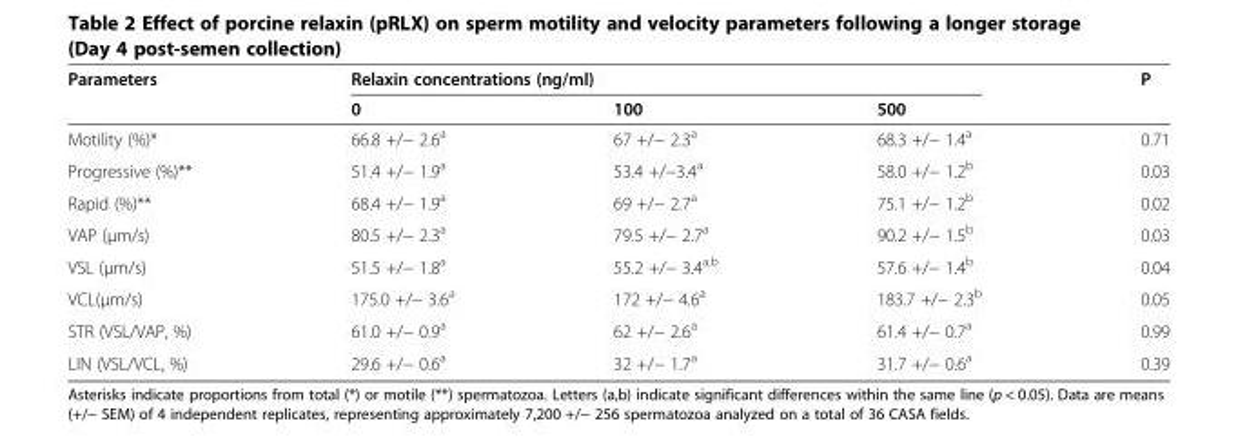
<table><thead><tr><td rowspan="2">Parameters</td><td colspan="3">Relaxin concentrations (ng/ml)</td><td rowspan="2">P</td></tr><tr><td>0</td><td>100</td><td>500</td></tr></thead><tbody><tr><td>Motility (%)*</td><td>66.8 +/− 2.6<sup>a</sup></td><td>67 +/− 2.3<sup>a</sup></td><td>68.3 +/− 1.4<sup>a</sup></td><td>0.71</td></tr><tr><td>Progressive (%)**</td><td>51.4 +/− 1.9<sup>a</sup></td><td>53.4 +/−3.4<sup>a</sup></td><td>58.0 +/− 1.2<sup>b</sup></td><td>0.03</td></tr><tr><td>Rapid (%)**</td><td>68.4 +/− 1.9<sup>a</sup></td><td>69 +/− 2.7<sup>a</sup></td><td>75.1 +/− 1.2<sup>b</sup></td><td>0.02</td></tr><tr><td>VAP (μm/s)</td><td>80.5 +/− 2.3<sup>a</sup></td><td>79.5 +/− 2.7<sup>a</sup></td><td>90.2 +/− 1.5<sup>b</sup></td><td>0.03</td></tr><tr><td>VSL (μm/s)</td><td>51.5 +/− 1.8<sup>a</sup></td><td>55.2 +/− 3.4<sup>a,b</sup></td><td>57.6 +/− 1.4<sup>b</sup></td><td>0.04</td></tr><tr><td>VCL(μm/s)</td><td>175.0 +/− 3.6<sup>a</sup></td><td>172 +/− 4.6<sup>a</sup></td><td>183.7 +/− 2.3<sup>b</sup></td><td>0.05</td></tr><tr><td>STR (VSL/VAP, %)</td><td>61.0 +/− 0.9<sup>a</sup></td><td>62 +/− 2.6<sup>a</sup></td><td>61.4 +/− 0.7<sup>a</sup></td><td>0.99</td></tr><tr><td>LIN (VSL/VCL, %)</td><td>29.6 +/− 0.6<sup>a</sup></td><td>32 +/− 1.7<sup>a</sup></td><td>31.7 +/− 0.6<sup>a</sup></td><td>0.39</td></tr></tbody></table>